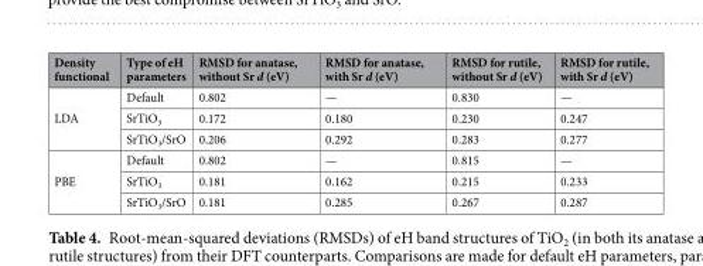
<table><thead><tr><td>Density functional</td><td>Type of eH parameters</td><td>RMSD for anatase, without Sr d (eV)</td><td>RMSD for anatase, with Sr d (eV)</td><td>RMSD for rutile, without Sr d (eV)</td><td>RMSD for rutile, with Sr d (eV)</td></tr></thead><tbody><tr><td rowspan="3">LDA</td><td>Default</td><td>0.802</td><td>—</td><td>0.830</td><td>—</td></tr><tr><td>SrTiO<sub>3</sub></td><td>0.172</td><td>0.180</td><td>0.230</td><td>0.247</td></tr><tr><td>SrTiO<sub>3</sub>/SrO</td><td>0.206</td><td>0.292</td><td>0.283</td><td>0.277</td></tr><tr><td rowspan="3">PBE</td><td>Default</td><td>0.802</td><td>—</td><td>0.815</td><td>—</td></tr><tr><td>SrTiO<sub>3</sub></td><td>0.181</td><td>0.162</td><td>0.215</td><td>0.233</td></tr><tr><td>SrTiO<sub>3</sub>/SrO</td><td>0.181</td><td>0.285</td><td>0.267</td><td>0.287</td></tr></tbody></table>